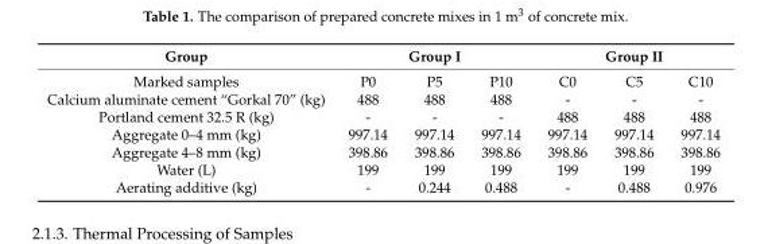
<table><thead><tr><td rowspan="2">Group Marked samples</td><td colspan="3">Group I</td><td colspan="3">Group II</td></tr><tr><td>P0</td><td>P5</td><td>P10</td><td>C0</td><td>C5</td><td>C10</td></tr></thead><tbody><tr><td>Calcium aluminate cement “Gorkal 70” (kg)</td><td>488</td><td>488</td><td>488</td><td>-</td><td>-</td><td>-</td></tr><tr><td>Portland cement 32.5 R (kg)</td><td>-</td><td>-</td><td>-</td><td>488</td><td>488</td><td>488</td></tr><tr><td>Aggregate 0–4 mm (kg)</td><td>997.14</td><td>997.14</td><td>997.14</td><td>997.14</td><td>997.14</td><td>997.14</td></tr><tr><td>Aggregate 4–8 mm (kg)</td><td>398.86</td><td>398.86</td><td>398.86</td><td>398.86</td><td>398.86</td><td>398.86</td></tr><tr><td>Water (L)</td><td>199</td><td>199</td><td>199</td><td>199</td><td>199</td><td>199</td></tr><tr><td>Aerating additive (kg)</td><td>-</td><td>0.244</td><td>0.488</td><td>-</td><td>0.488</td><td>0.976</td></tr></tbody></table>